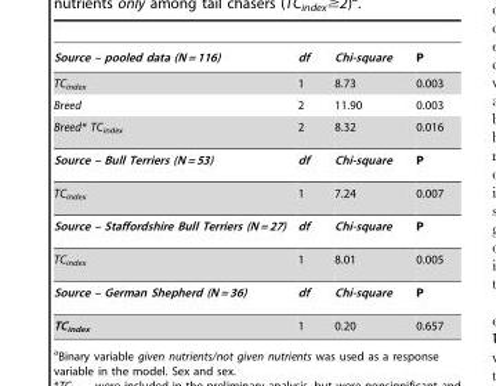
<table><thead><tr><td>Source – pooled data (N = 116)</td><td>df</td><td>Chi-square</td><td>P</td></tr></thead><tbody><tr><td>TC<sub>index</sub></td><td>1</td><td>8.73</td><td>0.003</td></tr><tr><td>Breed</td><td>2</td><td>11.90</td><td>0.003</td></tr><tr><td>Breed* TC<sub>index</sub></td><td>2</td><td>8.32</td><td>0.016</td></tr><tr><td>Source – Bull Terriers (N = 53)</td><td>df</td><td>Chi-square</td><td>P</td></tr><tr><td>TC<sub>index</sub></td><td>1</td><td>7.24</td><td>0.007</td></tr><tr><td>Source – Staffordshire Bull Terriers (N = 27)</td><td>df</td><td>Chi-square</td><td>P</td></tr><tr><td>TC<sub>index</sub></td><td>1</td><td>8.01</td><td>0.005</td></tr><tr><td>Source – German Shepherd (N = 36)</td><td>df</td><td>Chi-square</td><td>P</td></tr><tr><td>TC<sub>index</sub></td><td>1</td><td>0.20</td><td>0.657</td></tr></tbody></table>